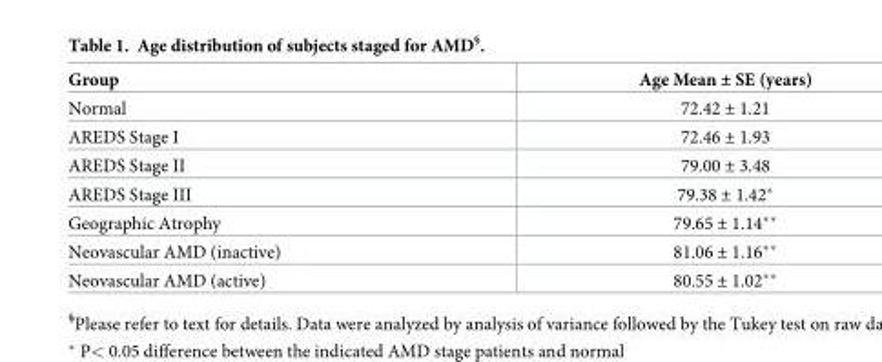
<table><thead><tr><td>Group</td><td>Age Mean ± SE (years)</td></tr></thead><tbody><tr><td>Normal</td><td>72.42 ± 1.21</td></tr><tr><td>AREDS Stage I</td><td>72.46 ± 1.93</td></tr><tr><td>AREDS Stage II</td><td>79.00 ± 3.48</td></tr><tr><td>AREDS Stage III</td><td>79.38 ± 1.42*</td></tr><tr><td>Geographic Atrophy</td><td>79.65 ± 1.14**</td></tr><tr><td>Neovascular AMD (inactive)</td><td>81.06 ± 1.16**</td></tr><tr><td>Neovascular AMD (active)</td><td>80.55 ± 1.02**</td></tr></tbody></table>